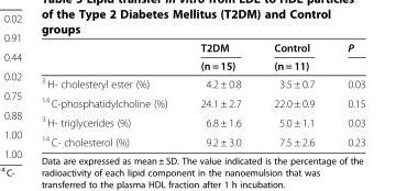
<table><thead><tr><td rowspan="2"></td><td rowspan="2">T2DM (n = 15)</td><td rowspan="2">Control (n = 11)</td><td rowspan="2">P</td></tr><tr></tr></thead><tbody><tr><td><sup>3</sup> H- cholesteryl ester (%)</td><td>4.2 ± 0.8</td><td>3.5 ± 0.7</td><td>0.03</td></tr><tr><td><sup>14</sup> C-phosphatidylcholine (%)</td><td>24.1 ± 2.7</td><td>22.0 ± 0.9</td><td>0.15</td></tr><tr><td><sup>3</sup> H- triglycerides (%)</td><td>6.8 ± 1.6</td><td>5.0 ± 1.1</td><td>0.03</td></tr><tr><td><sup>14</sup> C- cholesterol (%)</td><td>9.2 ± 3.0</td><td>7.5 ± 2.6</td><td>0.23</td></tr></tbody></table>